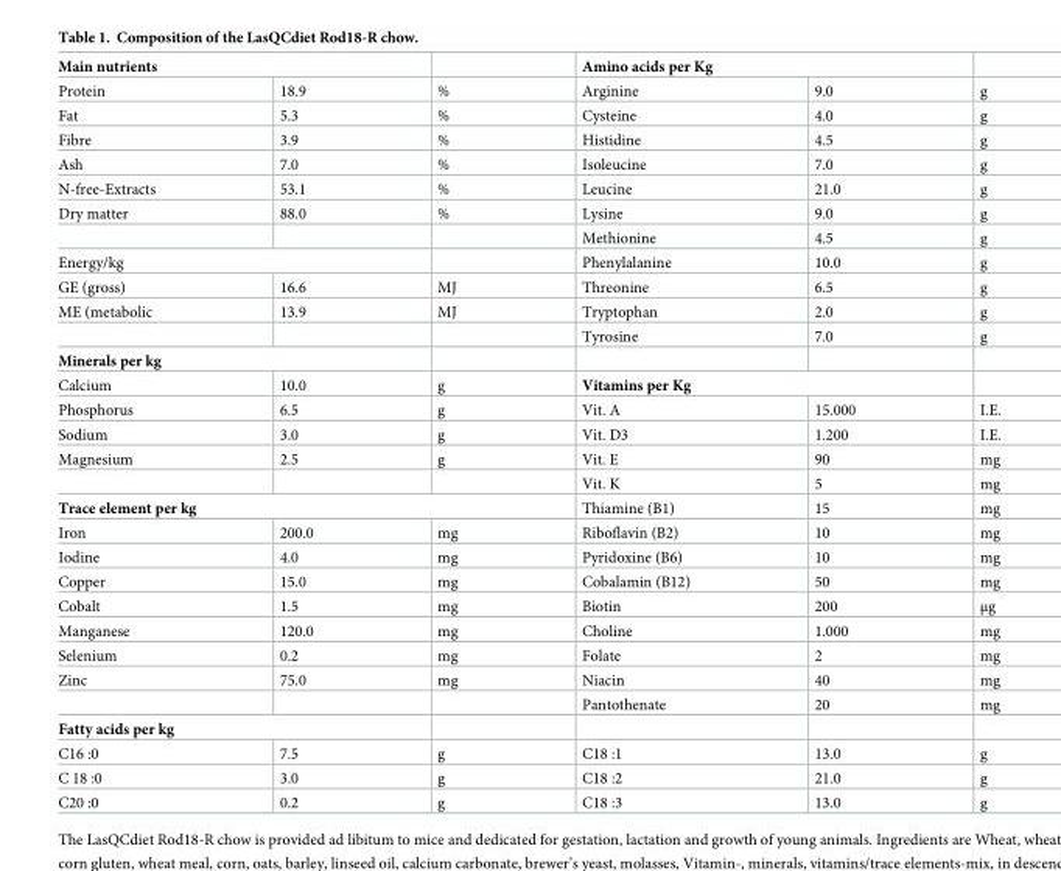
<table><tbody><tr><td colspan="2">Main nutrients</td><td></td><td colspan="2">Amino acids per Kg</td><td></td></tr><tr><td>Protein</td><td>18.9</td><td>%</td><td>Arginine</td><td>9.0</td><td>g</td></tr><tr><td>Fat</td><td>5.3</td><td>%</td><td>Cysteine</td><td>4.0</td><td>g</td></tr><tr><td>Fibre</td><td>3.9</td><td>%</td><td>Histidine</td><td>4.5</td><td>g</td></tr><tr><td>Ash</td><td>7.0</td><td>%</td><td>Isoleucine</td><td>7.0</td><td>g</td></tr><tr><td>N-free-Extracts</td><td>53.1</td><td>%</td><td>Leucine</td><td>21.0</td><td>g</td></tr><tr><td rowspan="2">Dry matter</td><td>88.0</td><td>%</td><td>Lysine</td><td>9.0</td><td>g</td></tr><tr><td></td><td></td><td>Methionine</td><td>4.5</td><td>g</td></tr><tr><td colspan="2">Energy/kg</td><td></td><td>Phenylalanine</td><td>10.0</td><td>g</td></tr><tr><td>GE (gross)</td><td>16.6</td><td>MJ</td><td>Threonine</td><td>6.5</td><td>g</td></tr><tr><td rowspan="2">ME (metabolic</td><td>13.9</td><td>MJ</td><td>Tryptophan</td><td>2.0</td><td>g</td></tr><tr><td></td><td></td><td>Tyrosine</td><td>7.0</td><td>g</td></tr><tr><td colspan="6">Minerals per kg</td></tr><tr><td>Calcium</td><td>10.0</td><td>g</td><td colspan="2">Vitamins per Kg</td><td></td></tr><tr><td>Phosphorus</td><td>6.5</td><td>g</td><td>Vit. A</td><td>15.000</td><td>I.E.</td></tr><tr><td>Sodium</td><td>3.0</td><td>g</td><td>Vit. D3</td><td>1.200</td><td>I.E.</td></tr><tr><td rowspan="2">Magnesium</td><td>2.5</td><td>g</td><td>Vit. E</td><td>90</td><td>mg</td></tr><tr><td></td><td></td><td>Vit. K</td><td>5</td><td>mg</td></tr><tr><td colspan="3">Trace element per kg</td><td>Thiamine (B1)</td><td>15</td><td>mg</td></tr><tr><td>Iron</td><td>200.0</td><td>mg</td><td>Riboflavin (B2)</td><td>10</td><td>mg</td></tr><tr><td>Iodine</td><td>4.0</td><td>mg</td><td>Pyridoxine (B6)</td><td>10</td><td>mg</td></tr><tr><td>Copper</td><td>15.0</td><td>mg</td><td>Cobalamin (B12)</td><td>50</td><td>mg</td></tr><tr><td>Cobalt</td><td>1.5</td><td>mg</td><td>Biotin</td><td>200</td><td>μg</td></tr><tr><td>Manganese</td><td>120.0</td><td>mg</td><td>Choline</td><td>1.000</td><td>mg</td></tr><tr><td>Selenium</td><td>0.2</td><td>mg</td><td>Folate</td><td>2</td><td>mg</td></tr><tr><td rowspan="2">Zinc</td><td>75.0</td><td>mg</td><td>Niacin</td><td>40</td><td>mg</td></tr><tr><td></td><td></td><td>Pantothenate</td><td>20</td><td>mg</td></tr><tr><td colspan="6">Fatty acids per kg</td></tr><tr><td>C16 :0</td><td>7.5</td><td>g</td><td>C18 :1</td><td>13.0</td><td>g</td></tr><tr><td>C 18 :0</td><td>3.0</td><td>g</td><td>C18 :2</td><td>21.0</td><td>g</td></tr><tr><td>C20 :0</td><td>0.2</td><td>g</td><td>C18 :3</td><td>13.0</td><td>g</td></tr></tbody></table>